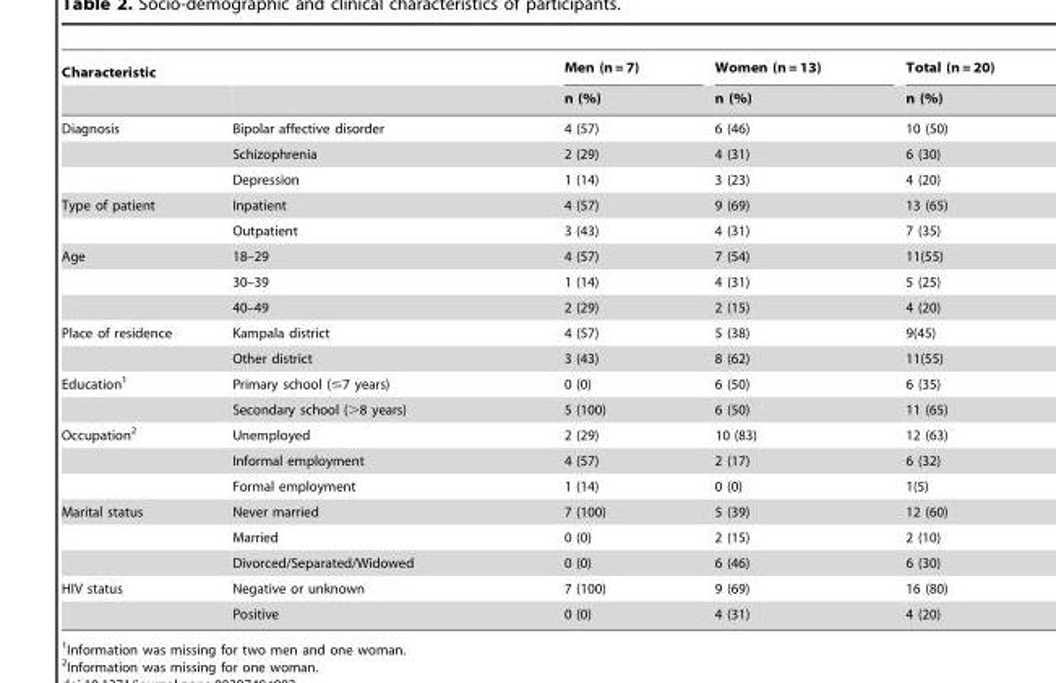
<table><thead><tr><td rowspan="2">Characteristic</td><td rowspan="2"></td><td rowspan="2">Men (n = 7) n (%)</td><td rowspan="2">Women (n = 13) n (%)</td><td rowspan="2">Total (n = 20) n (%)</td></tr><tr></tr></thead><tbody><tr><td rowspan="3">Diagnosis</td><td>Bipolar affective disorder</td><td>4 (57)</td><td>6 (46)</td><td>10 (50)</td></tr><tr><td>Schizophrenia</td><td>2 (29)</td><td>4 (31)</td><td>6 (30)</td></tr><tr><td>Depression</td><td>1 (14)</td><td>3 (23)</td><td>4 (20)</td></tr><tr><td rowspan="2">Type of patient</td><td>Inpatient</td><td>4 (57)</td><td>9 (69)</td><td>13 (65)</td></tr><tr><td>Outpatient</td><td>3 (43)</td><td>4 (31)</td><td>7 (35)</td></tr><tr><td rowspan="3">Age</td><td>18–29</td><td>4 (57)</td><td>7 (54)</td><td>11(55)</td></tr><tr><td>30–39</td><td>1 (14)</td><td>4 (31)</td><td>5 (25)</td></tr><tr><td>40–49</td><td>2 (29)</td><td>2 (15)</td><td>4 (20)</td></tr><tr><td rowspan="2">Place of residence</td><td>Kampala district</td><td>4 (57)</td><td>5 (38)</td><td>9(45)</td></tr><tr><td>Other district</td><td>3 (43)</td><td>8 (62)</td><td>11(55)</td></tr><tr><td rowspan="2">Education<sup>1</sup></td><td>Primary school (≤7 years)</td><td>0 (0)</td><td>6 (50)</td><td>6 (35)</td></tr><tr><td>Secondary school (&gt;8 years)</td><td>5 (100)</td><td>6 (50)</td><td>11 (65)</td></tr><tr><td rowspan="3">Occupation<sup>2</sup></td><td>Unemployed</td><td>2 (29)</td><td>10 (83)</td><td>12 (63)</td></tr><tr><td>Informal employment</td><td>4 (57)</td><td>2 (17)</td><td>6 (32)</td></tr><tr><td>Formal employment</td><td>1 (14)</td><td>0 (0)</td><td>1(5)</td></tr><tr><td rowspan="3">Marital status</td><td>Never married</td><td>7 (100)</td><td>5 (39)</td><td>12 (60)</td></tr><tr><td>Married</td><td>0 (0)</td><td>2 (15)</td><td>2 (10)</td></tr><tr><td>Divorced/Separated/Widowed</td><td>0 (0)</td><td>6 (46)</td><td>6 (30)</td></tr><tr><td rowspan="2">HIV status</td><td>Negative or unknown</td><td>7 (100)</td><td>9 (69)</td><td>16 (80)</td></tr><tr><td>Positive</td><td>0 (0)</td><td>4 (31)</td><td>4 (20)</td></tr></tbody></table>